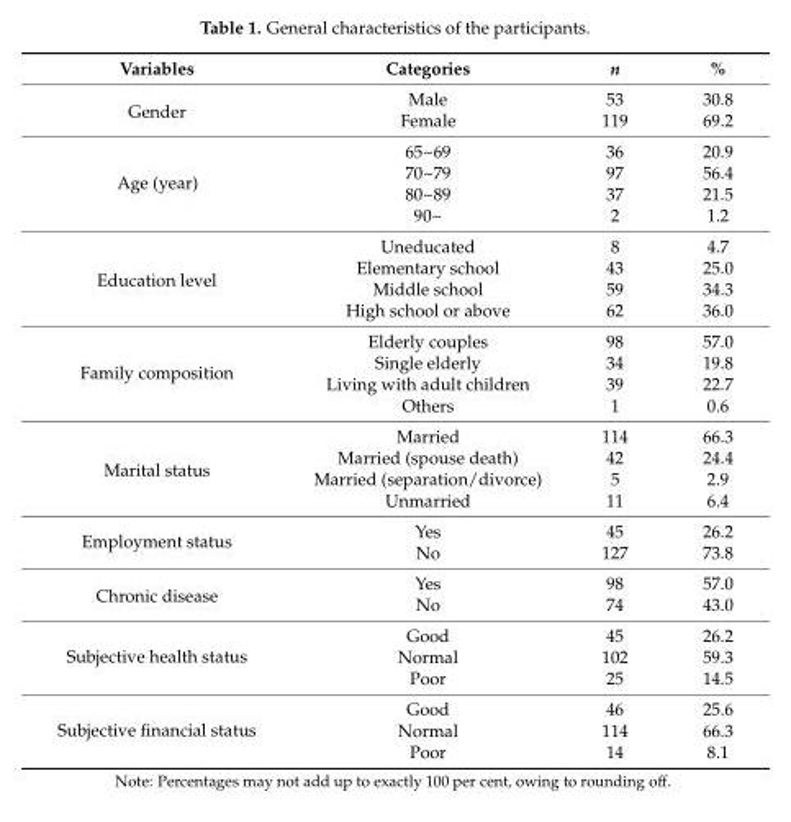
<table><thead><tr><td>Variables</td><td>Categories</td><td>n</td><td>%</td></tr></thead><tbody><tr><td rowspan="2">Gender</td><td>Male</td><td>53</td><td>30.8</td></tr><tr><td>Female</td><td>119</td><td>69.2</td></tr><tr><td rowspan="4">Age (year)</td><td>65~69</td><td>36</td><td>20.9</td></tr><tr><td>70~79</td><td>97</td><td>56.4</td></tr><tr><td>80~89</td><td>37</td><td>21.5</td></tr><tr><td>90~</td><td>2</td><td>1.2</td></tr><tr><td rowspan="4">Education level</td><td>Uneducated</td><td>8</td><td>4.7</td></tr><tr><td>Elementary school</td><td>43</td><td>25.0</td></tr><tr><td>Middle school</td><td>59</td><td>34.3</td></tr><tr><td>High school or above</td><td>62</td><td>36.0</td></tr><tr><td rowspan="4">Family composition</td><td>Elderly couples</td><td>98</td><td>57.0</td></tr><tr><td>Single elderly</td><td>34</td><td>19.8</td></tr><tr><td>Living with adult children</td><td>39</td><td>22.7</td></tr><tr><td>Others</td><td>1</td><td>0.6</td></tr><tr><td rowspan="4">Marital status</td><td>Married</td><td>114</td><td>66.3</td></tr><tr><td>Married (spouse death)</td><td>42</td><td>24.4</td></tr><tr><td>Married (separation/divorce)</td><td>5</td><td>2.9</td></tr><tr><td>Unmarried</td><td>11</td><td>6.4</td></tr><tr><td rowspan="2">Employment status</td><td>Yes</td><td>45</td><td>26.2</td></tr><tr><td>No</td><td>127</td><td>73.8</td></tr><tr><td rowspan="2">Chronic disease</td><td>Yes</td><td>98</td><td>57.0</td></tr><tr><td>No</td><td>74</td><td>43.0</td></tr><tr><td rowspan="3">Subjective health status</td><td>Good</td><td>45</td><td>26.2</td></tr><tr><td>Normal</td><td>102</td><td>59.3</td></tr><tr><td>Poor</td><td>25</td><td>14.5</td></tr><tr><td rowspan="3">Subjective financial status</td><td>Good</td><td>46</td><td>25.6</td></tr><tr><td>Normal</td><td>114</td><td>66.3</td></tr><tr><td>Poor</td><td>14</td><td>8.1</td></tr></tbody></table>